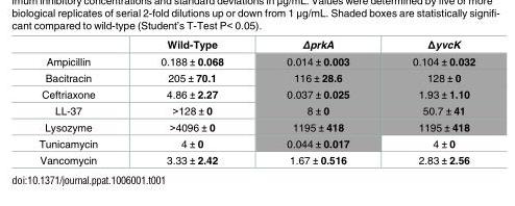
<table><thead><tr><td></td><td>Wild-Type</td><td>ΔprkA</td><td>ΔyvcK</td></tr></thead><tbody><tr><td>Ampicillin</td><td>0.188 ± 0.068</td><td>0.014 ± 0.003</td><td>0.104 ± 0.032</td></tr><tr><td>Bacitracin</td><td>205 ± 70.1</td><td>116 ± 28.6</td><td>128 ± 0</td></tr><tr><td>Ceftriaxone</td><td>4.86 ± 2.27</td><td>0.037 ± 0.025</td><td>1.93 ± 1.10</td></tr><tr><td>LL-37</td><td>&gt;128 ± 0</td><td>8 ± 0</td><td>50.7 ± 41</td></tr><tr><td>Lysozyme</td><td>&gt;4096 ± 0</td><td>1195 ± 418</td><td>1195 ± 418</td></tr><tr><td>Tunicamycin</td><td>4 ± 0</td><td>0.044 ± 0.017</td><td>4 ± 0</td></tr><tr><td>Vancomycin</td><td>3.33 ± 2.42</td><td>1.67 ± 0.516</td><td>2.83 ± 2.56</td></tr></tbody></table>